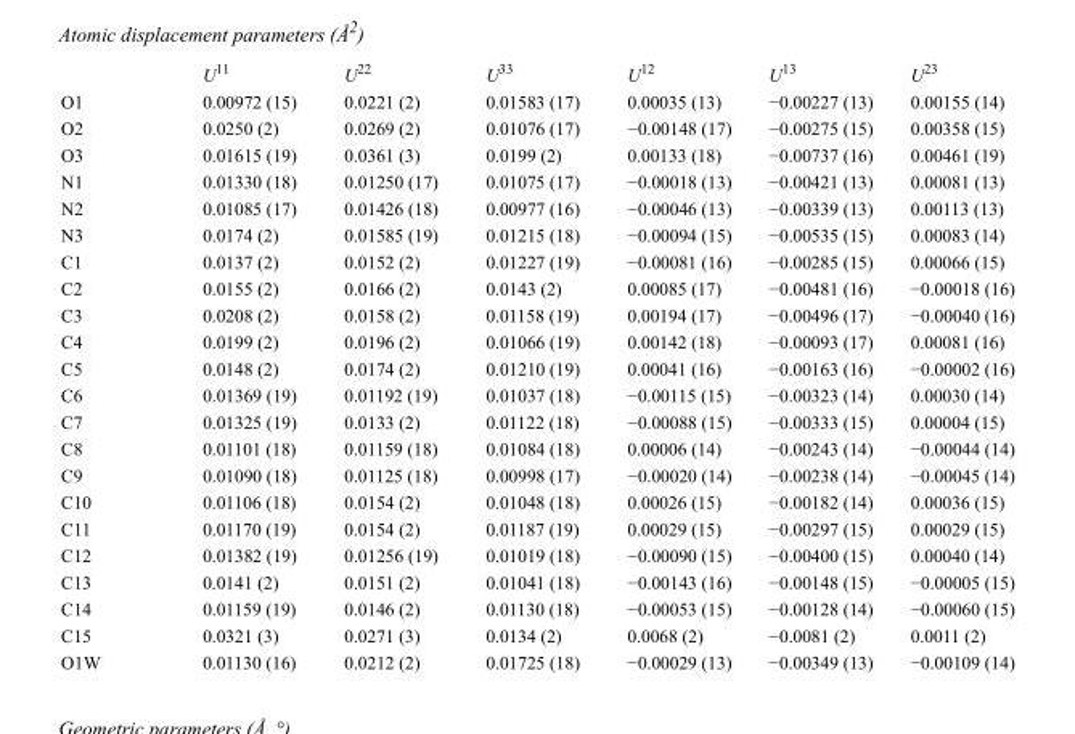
<table><thead><tr><td></td><td>U<sup>11</sup></td><td>U<sup>22</sup></td><td>U<sup>33</sup></td><td>U<sup>12</sup></td><td>U<sup>13</sup></td><td>U<sup>23</sup></td></tr></thead><tbody><tr><td>O1</td><td>0.00972 (15)</td><td>0.0221 (2)</td><td>0.01583 (17)</td><td>0.00035 (13)</td><td>−0.00227 (13)</td><td>0.00155 (14)</td></tr><tr><td>O2</td><td>0.0250 (2)</td><td>0.0269 (2)</td><td>0.01076 (17)</td><td>−0.00148 (17)</td><td>−0.00275 (15)</td><td>0.00358 (15)</td></tr><tr><td>O3</td><td>0.01615 (19)</td><td>0.0361 (3)</td><td>0.0199 (2)</td><td>0.00133 (18)</td><td>−0.00737 (16)</td><td>0.00461 (19)</td></tr><tr><td>N1</td><td>0.01330 (18)</td><td>0.01250 (17)</td><td>0.01075 (17)</td><td>−0.00018 (13)</td><td>−0.00421 (13)</td><td>0.00081 (13)</td></tr><tr><td>N2</td><td>0.01085 (17)</td><td>0.01426 (18)</td><td>0.00977 (16)</td><td>−0.00046 (13)</td><td>−0.00339 (13)</td><td>0.00113 (13)</td></tr><tr><td>N3</td><td>0.0174 (2)</td><td>0.01585 (19)</td><td>0.01215 (18)</td><td>−0.00094 (15)</td><td>−0.00535 (15)</td><td>0.00083 (14)</td></tr><tr><td>C1</td><td>0.0137 (2)</td><td>0.0152 (2)</td><td>0.01227 (19)</td><td>−0.00081 (16)</td><td>−0.00285 (15)</td><td>0.00066 (15)</td></tr><tr><td>C2</td><td>0.0155 (2)</td><td>0.0166 (2)</td><td>0.0143 (2)</td><td>0.00085 (17)</td><td>−0.00481 (16)</td><td>−0.00018 (16)</td></tr><tr><td>C3</td><td>0.0208 (2)</td><td>0.0158 (2)</td><td>0.01158 (19)</td><td>0.00194 (17)</td><td>−0.00496 (17)</td><td>−0.00040 (16)</td></tr><tr><td>C4</td><td>0.0199 (2)</td><td>0.0196 (2)</td><td>0.01066 (19)</td><td>0.00142 (18)</td><td>−0.00093 (17)</td><td>0.00081 (16)</td></tr><tr><td>C5</td><td>0.0148 (2)</td><td>0.0174 (2)</td><td>0.01210 (19)</td><td>0.00041 (16)</td><td>−0.00163 (16)</td><td>−0.00002 (16)</td></tr><tr><td>C6</td><td>0.01369 (19)</td><td>0.01192 (19)</td><td>0.01037 (18)</td><td>−0.00115 (15)</td><td>−0.00323 (14)</td><td>0.00030 (14)</td></tr><tr><td>C7</td><td>0.01325 (19)</td><td>0.0133 (2)</td><td>0.01122 (18)</td><td>−0.00088 (15)</td><td>−0.00333 (15)</td><td>0.00004 (15)</td></tr><tr><td>C8</td><td>0.01101 (18)</td><td>0.01159 (18)</td><td>0.01084 (18)</td><td>0.00006 (14)</td><td>−0.00243 (14)</td><td>−0.00044 (14)</td></tr><tr><td>C9</td><td>0.01090 (18)</td><td>0.01125 (18)</td><td>0.00998 (17)</td><td>−0.00020 (14)</td><td>−0.00238 (14)</td><td>−0.00045 (14)</td></tr><tr><td>C10</td><td>0.01106 (18)</td><td>0.0154 (2)</td><td>0.01048 (18)</td><td>0.00026 (15)</td><td>−0.00182 (14)</td><td>0.00036 (15)</td></tr><tr><td>C11</td><td>0.01170 (19)</td><td>0.0154 (2)</td><td>0.01187 (19)</td><td>0.00029 (15)</td><td>−0.00297 (15)</td><td>0.00029 (15)</td></tr><tr><td>C12</td><td>0.01382 (19)</td><td>0.01256 (19)</td><td>0.01019 (18)</td><td>−0.00090 (15)</td><td>−0.00400 (15)</td><td>0.00040 (14)</td></tr><tr><td>C13</td><td>0.0141 (2)</td><td>0.0151 (2)</td><td>0.01041 (18)</td><td>−0.00143 (16)</td><td>−0.00148 (15)</td><td>−0.00005 (15)</td></tr><tr><td>C14</td><td>0.01159 (19)</td><td>0.0146 (2)</td><td>0.01130 (18)</td><td>−0.00053 (15)</td><td>−0.00128 (14)</td><td>−0.00060 (15)</td></tr><tr><td>C15</td><td>0.0321 (3)</td><td>0.0271 (3)</td><td>0.0134 (2)</td><td>0.0068 (2)</td><td>−0.0081 (2)</td><td>0.0011 (2)</td></tr><tr><td>O1W</td><td>0.01130 (16)</td><td>0.0212 (2)</td><td>0.01725 (18)</td><td>−0.00029 (13)</td><td>−0.00349 (13)</td><td>−0.00109 (14)</td></tr></tbody></table>